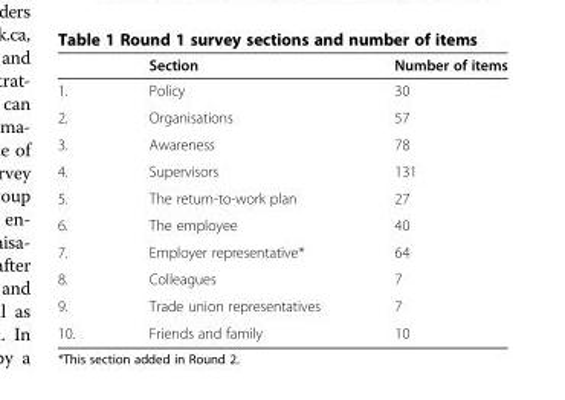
<table><thead><tr><td></td><td>Section</td><td>Number of items</td></tr></thead><tbody><tr><td>1.</td><td>Policy</td><td>30</td></tr><tr><td>2.</td><td>Organisations</td><td>57</td></tr><tr><td>3.</td><td>Awareness</td><td>78</td></tr><tr><td>4.</td><td>Supervisors</td><td>131</td></tr><tr><td>5.</td><td>The return-to-work plan</td><td>27</td></tr><tr><td>6.</td><td>The employee</td><td>40</td></tr><tr><td>7.</td><td>Employer representative*</td><td>64</td></tr><tr><td>8.</td><td>Colleagues</td><td>7</td></tr><tr><td>9.</td><td>Trade union representatives</td><td>7</td></tr><tr><td>10.</td><td>Friends and family</td><td>10</td></tr></tbody></table>